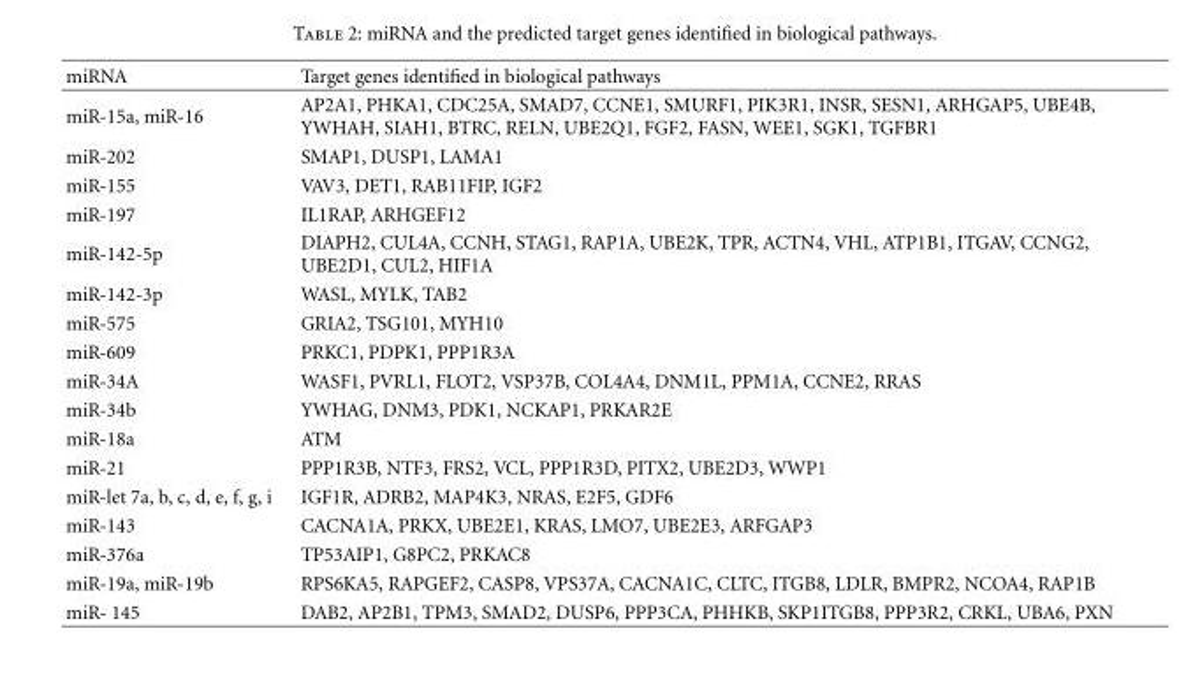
<table><thead><tr><td>miRNA</td><td>Target genes identified in biological pathways</td></tr></thead><tbody><tr><td>miR-15a, miR-16</td><td>AP2A1, PHKA1, CDC25A, SMAD7, CCNE1, SMURF1, PIK3R1, INSR, SESN1, ARHGAP5, UBE4B, YWHAH, SIAH1, BTRC, RELN, UBE2Q1, FGF2, FASN, WEE1, SGK1, TGFBR1</td></tr><tr><td>miR-202</td><td>SMAP1, DUSP1, LAMA1</td></tr><tr><td>miR-155</td><td>VAV3, DET1, RAB11FIP, IGF2</td></tr><tr><td>miR-197</td><td>IL1RAP, ARHGEF12</td></tr><tr><td>miR-142-5p</td><td>DIAPH2, CUL4A, CCNH, STAG1, RAP1A, UBE2K, TPR, ACTN4, VHL, ATP1B1, ITGAV, CCNG2, UBE2D1, CUL2, HIF1A</td></tr><tr><td>miR-142-3p</td><td>WASL, MYLK, TAB2</td></tr><tr><td>miR-575</td><td>GRIA2, TSG101, MYH10</td></tr><tr><td>miR-609</td><td>PRKC1, PDPK1, PPP1R3A</td></tr><tr><td>miR-34A</td><td>WASF1, PVRL1, FLOT2, VSP37B, COL4A4, DNM1L, PPM1A, CCNE2, RRAS</td></tr><tr><td>miR-34b</td><td>YWHAG, DNM3, PDK1, NCKAP1, PRKAR2E</td></tr><tr><td>miR-18a</td><td>ATM</td></tr><tr><td>miR-21</td><td>PPP1R3B, NTF3, FRS2, VCL, PPP1R3D, PITX2, UBE2D3, WWP1</td></tr><tr><td>miR-let 7a, b, c, d, e, f, g, i</td><td>IGF1R, ADRB2, MAP4K3, NRAS, E2F5, GDF6</td></tr><tr><td>miR-143</td><td>CACNA1A, PRKX, UBE2E1, KRAS, LMO7, UBE2E3, ARFGAP3</td></tr><tr><td>miR-376a</td><td>TP53AIP1, G8PC2, PRKAC8</td></tr><tr><td>miR-19a, miR-19b</td><td>RPS6KA5, RAPGEF2, CASP8, VPS37A, CACNA1C, CLTC, ITGB8, LDLR, BMPR2, NCOA4, RAP1B</td></tr><tr><td>miR- 145</td><td>DAB2, AP2B1, TPM3, SMAD2, DUSP6, PPP3CA, PHHKB, SKP1ITGB8, PPP3R2, CRKL, UBA6, PXN</td></tr></tbody></table>